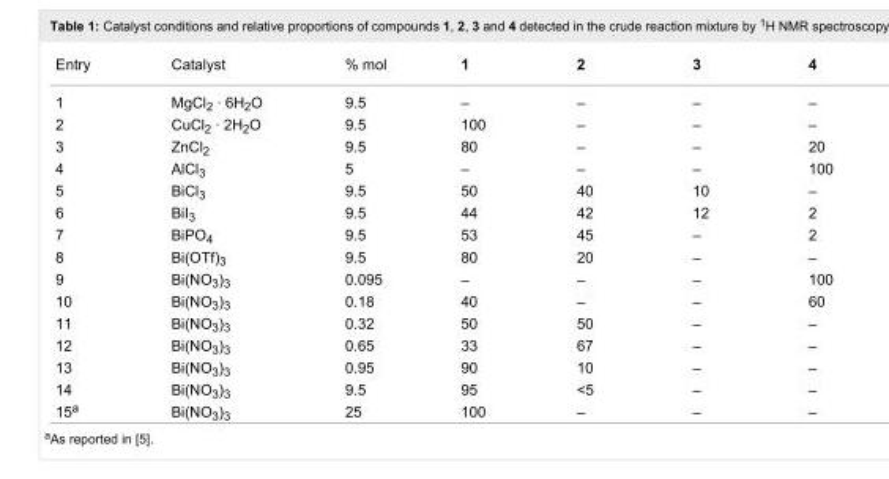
<table><tbody><tr><td>Entry</td><td>Catalyst</td><td>% mol</td><td>1</td><td>2</td><td>3</td><td>4</td></tr><tr><td>1</td><td>MgCl<sub>2</sub> · 6H<sub>2</sub>O</td><td>9.5</td><td>–</td><td>–</td><td>–</td><td>–</td></tr><tr><td>2</td><td>CuCl<sub>2</sub> · 2H<sub>2</sub>O</td><td>9.5</td><td>100</td><td>–</td><td>–</td><td>–</td></tr><tr><td>3</td><td>ZnCl<sub>2</sub></td><td>9.5</td><td>80</td><td>–</td><td>–</td><td>20</td></tr><tr><td>4</td><td>AlCl<sub>3</sub></td><td>5</td><td>–</td><td>–</td><td>–</td><td>100</td></tr><tr><td>5</td><td>BiCl<sub>3</sub></td><td>9.5</td><td>50</td><td>40</td><td>10</td><td>–</td></tr><tr><td>6</td><td>BiI<sub>3</sub></td><td>9.5</td><td>44</td><td>42</td><td>12</td><td>2</td></tr><tr><td>7</td><td>BiPO<sub>4</sub></td><td>9.5</td><td>53</td><td>45</td><td>–</td><td>2</td></tr><tr><td>8</td><td>Bi(OTf)<sub>3</sub></td><td>9.5</td><td>80</td><td>20</td><td>–</td><td>–</td></tr><tr><td>9</td><td>Bi(NO<sub>3</sub>)<sub>3</sub></td><td>0.095</td><td>–</td><td>–</td><td>–</td><td>100</td></tr><tr><td>10</td><td>Bi(NO<sub>3</sub>)<sub>3</sub></td><td>0.18</td><td>40</td><td>–</td><td>–</td><td>60</td></tr><tr><td>11</td><td>Bi(NO<sub>3</sub>)<sub>3</sub></td><td>0.32</td><td>50</td><td>50</td><td>–</td><td>–</td></tr><tr><td>12</td><td>Bi(NO<sub>3</sub>)<sub>3</sub></td><td>0.65</td><td>33</td><td>67</td><td>–</td><td>–</td></tr><tr><td>13</td><td>Bi(NO<sub>3</sub>)<sub>3</sub></td><td>0.95</td><td>90</td><td>10</td><td>–</td><td>–</td></tr><tr><td>14</td><td>Bi(NO<sub>3</sub>)<sub>3</sub></td><td>9.5</td><td>95</td><td>&lt;5</td><td>–</td><td>–</td></tr><tr><td>15<sup>a</sup></td><td>Bi(NO<sub>3</sub>)<sub>3</sub></td><td>25</td><td>100</td><td>–</td><td>–</td><td>–</td></tr></tbody></table>